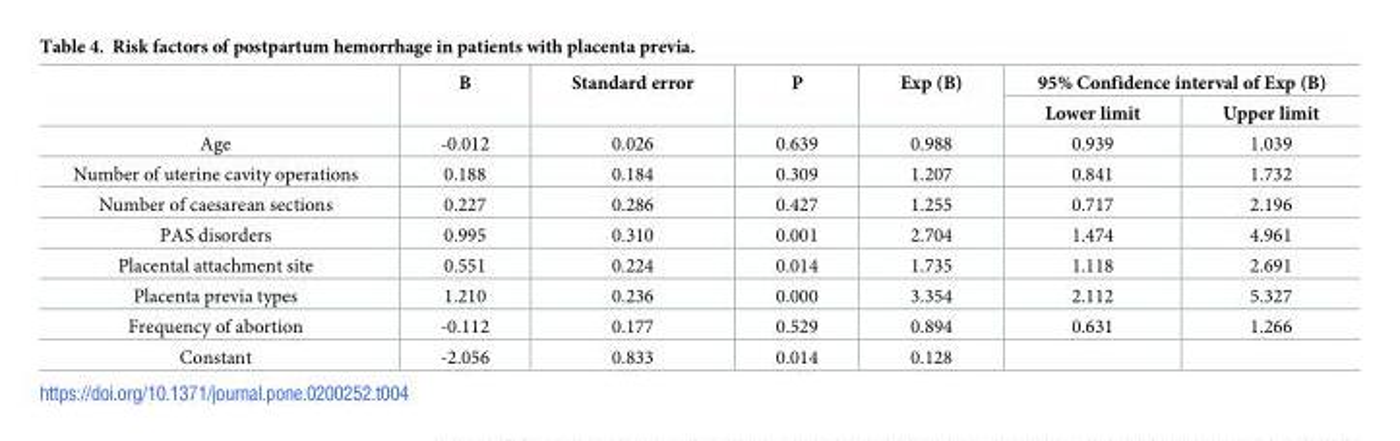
<table><thead><tr><td rowspan="2"></td><td rowspan="2">B</td><td rowspan="2">Standard error</td><td rowspan="2">P</td><td rowspan="2">Exp (B)</td><td colspan="2">95% Confidence interval of Exp (B)</td></tr><tr><td>Lower limit</td><td>Upper limit</td></tr></thead><tbody><tr><td>Age</td><td>-0.012</td><td>0.026</td><td>0.639</td><td>0.988</td><td>0.939</td><td>1.039</td></tr><tr><td>Number of uterine cavity operations</td><td>0.188</td><td>0.184</td><td>0.309</td><td>1.207</td><td>0.841</td><td>1.732</td></tr><tr><td>Number of caesarean sections</td><td>0.227</td><td>0.286</td><td>0.427</td><td>1.255</td><td>0.717</td><td>2.196</td></tr><tr><td>PAS disorders</td><td>0.995</td><td>0.310</td><td>0.001</td><td>2.704</td><td>1.474</td><td>4.961</td></tr><tr><td>Placental attachment site</td><td>0.551</td><td>0.224</td><td>0.014</td><td>1.735</td><td>1.118</td><td>2.691</td></tr><tr><td>Placenta previa types</td><td>1.210</td><td>0.236</td><td>0.000</td><td>3.354</td><td>2.112</td><td>5.327</td></tr><tr><td>Frequency of abortion</td><td>-0.112</td><td>0.177</td><td>0.529</td><td>0.894</td><td>0.631</td><td>1.266</td></tr><tr><td>Constant</td><td>-2.056</td><td>0.833</td><td>0.014</td><td>0.128</td><td></td><td></td></tr></tbody></table>